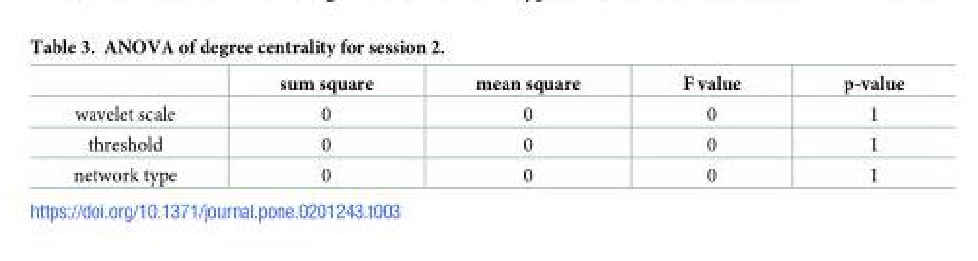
<table><thead><tr><td></td><td>sum square</td><td>mean square</td><td>F value</td><td>p-value</td></tr></thead><tbody><tr><td>wavelet scale</td><td>0</td><td>0</td><td>0</td><td>1</td></tr><tr><td>threshold</td><td>0</td><td>0</td><td>0</td><td>1</td></tr><tr><td>network type</td><td>0</td><td>0</td><td>0</td><td>1</td></tr></tbody></table>